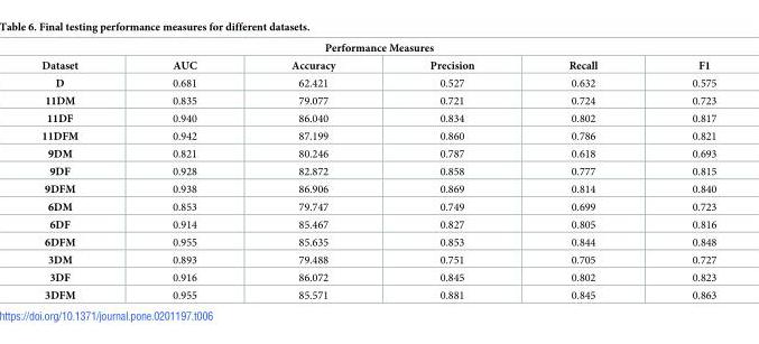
<table><thead><tr><td colspan="6">Performance Measures</td></tr><tr><td>Dataset</td><td>AUC</td><td>Accuracy</td><td>Precision</td><td>Recall</td><td>F1</td></tr></thead><tbody><tr><td>D</td><td>0.681</td><td>62.421</td><td>0.527</td><td>0.632</td><td>0.575</td></tr><tr><td>11DM</td><td>0.835</td><td>79.077</td><td>0.721</td><td>0.724</td><td>0.723</td></tr><tr><td>11DF</td><td>0.940</td><td>86.040</td><td>0.834</td><td>0.802</td><td>0.817</td></tr><tr><td>11DFM</td><td>0.942</td><td>87.199</td><td>0.860</td><td>0.786</td><td>0.821</td></tr><tr><td>9DM</td><td>0.821</td><td>80.246</td><td>0.787</td><td>0.618</td><td>0.693</td></tr><tr><td>9DF</td><td>0.928</td><td>82.872</td><td>0.858</td><td>0.777</td><td>0.815</td></tr><tr><td>9DFM</td><td>0.938</td><td>86.906</td><td>0.869</td><td>0.814</td><td>0.840</td></tr><tr><td>6DM</td><td>0.853</td><td>79.747</td><td>0.749</td><td>0.699</td><td>0.723</td></tr><tr><td>6DF</td><td>0.914</td><td>85.467</td><td>0.827</td><td>0.805</td><td>0.816</td></tr><tr><td>6DFM</td><td>0.955</td><td>85.635</td><td>0.853</td><td>0.844</td><td>0.848</td></tr><tr><td>3DM</td><td>0.893</td><td>79.488</td><td>0.751</td><td>0.705</td><td>0.727</td></tr><tr><td>3DF</td><td>0.916</td><td>86.072</td><td>0.845</td><td>0.802</td><td>0.823</td></tr><tr><td>3DFM</td><td>0.955</td><td>85.571</td><td>0.881</td><td>0.845</td><td>0.863</td></tr></tbody></table>